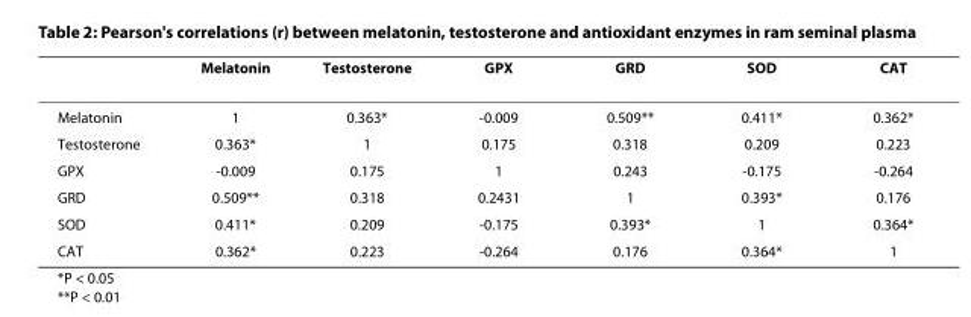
<table><thead><tr><td></td><td>Melatonin</td><td>Testosterone</td><td>GPX</td><td>GRD</td><td>SOD</td><td>CAT</td></tr></thead><tbody><tr><td>Melatonin</td><td>1</td><td>0.363*</td><td>-0.009</td><td>0.509**</td><td>0.411*</td><td>0.362*</td></tr><tr><td>Testosterone</td><td>0.363*</td><td>1</td><td>0.175</td><td>0.318</td><td>0.209</td><td>0.223</td></tr><tr><td>GPX</td><td>-0.009</td><td>0.175</td><td>1</td><td>0.243</td><td>-0.175</td><td>-0.264</td></tr><tr><td>GRD</td><td>0.509**</td><td>0.318</td><td>0.2431</td><td>1</td><td>0.393*</td><td>0.176</td></tr><tr><td>SOD</td><td>0.411*</td><td>0.209</td><td>-0.175</td><td>0.393*</td><td>1</td><td>0.364*</td></tr><tr><td>CAT</td><td>0.362*</td><td>0.223</td><td>-0.264</td><td>0.176</td><td>0.364*</td><td>1</td></tr></tbody></table>